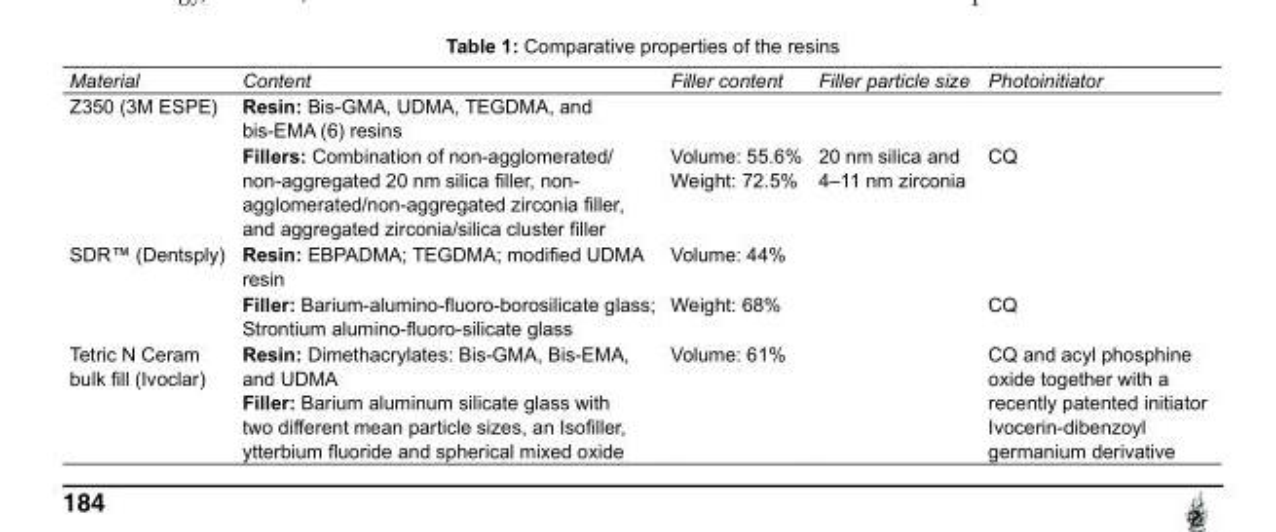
<table><tbody><tr><td>Material</td><td>Content</td><td>Filler content</td><td>Filler particle size</td><td>Photoinitiator</td></tr><tr><td>Z350 (3M ESPE)</td><td>Resin: Bis-GMA, UDMA, TEGDMA, and bis-EMA (6) resins Fillers: Combination of non-agglomerated/ non-aggregated 20 nm silica filler, non- agglomerated/non-aggregated zirconia filler, and aggregated zirconia/silica cluster filler</td><td>Volume: 55.6% Weight: 72.5%</td><td>20 nm silica and 4–11 nm zirconia</td><td>CQ</td></tr><tr><td>SDR™ (Dentsply)</td><td>Resin: EBPADMA; TEGDMA; modified UDMA resin Filler: Barium-alumino-fluoro-borosilicate glass; Strontium alumino-fluoro-silicate glass</td><td>Volume: 44% Weight: 68%</td><td></td><td>CQ</td></tr><tr><td>Tetric N Ceram bulk fill (Ivoclar)</td><td>Resin: Dimethacrylates: Bis-GMA, Bis-EMA, and UDMA Filler: Barium aluminum silicate glass with two different mean particle sizes, an Isofiller, ytterbium fluoride and spherical mixed oxide</td><td>Volume: 61%</td><td></td><td>CQ and acyl phosphine oxide together with a recently patented initiator Ivocerin-dibenzoyl germanium derivative</td></tr></tbody></table>